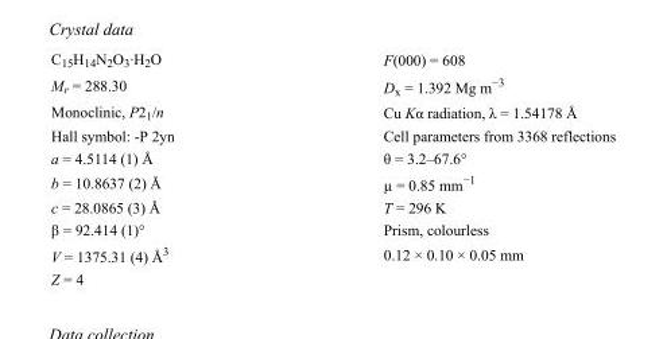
<table><tbody><tr><td>C<sub>15</sub>H<sub>14</sub>N<sub>2</sub>O<sub>3</sub>·H<sub>2</sub>O</td><td>F(000) = 608</td></tr><tr><td>M<sub>r</sub> = 288.30</td><td>D<sub>x</sub> = 1.392 Mg m<sup>−3</sup></td></tr><tr><td>Monoclinic, P2<sub>1</sub>/n</td><td>Cu Kα radiation, λ = 1.54178 Å</td></tr><tr><td>Hall symbol: -P 2yn</td><td>Cell parameters from 3368 reflections</td></tr><tr><td>a = 4.5114 (1) Å</td><td>θ = 3.2–67.6°</td></tr><tr><td>b = 10.8637 (2) Å</td><td>µ = 0.85 mm<sup>−1</sup></td></tr><tr><td>c = 28.0865 (3) Å</td><td>T = 296 K</td></tr><tr><td>β = 92.414 (1)°</td><td>Prism, colourless</td></tr><tr><td>V = 1375.31 (4) Å<sup>3</sup></td><td>0.12 × 0.10 × 0.05 mm</td></tr><tr><td>Z = 4</td><td></td></tr></tbody></table>